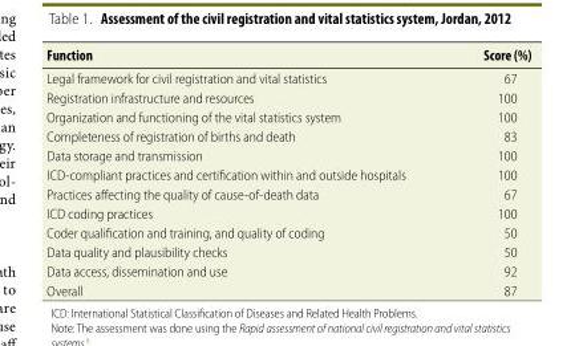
<table><thead><tr><td>Function</td><td>Score (%)</td></tr></thead><tbody><tr><td>Legal framework for civil registration and vital statistics</td><td>67</td></tr><tr><td>Registration infrastructure and resources</td><td>100</td></tr><tr><td>Organization and functioning of the vital statistics system</td><td>100</td></tr><tr><td>Completeness of registration of births and death</td><td>83</td></tr><tr><td>Data storage and transmission</td><td>100</td></tr><tr><td>ICD-compliant practices and certification within and outside hospitals</td><td>100</td></tr><tr><td>Practices affecting the quality of cause-of-death data</td><td>67</td></tr><tr><td>ICD coding practices</td><td>100</td></tr><tr><td>Coder qualification and training, and quality of coding</td><td>50</td></tr><tr><td>Data quality and plausibility checks</td><td>50</td></tr><tr><td>Data access, dissemination and use</td><td>92</td></tr><tr><td>Overall</td><td>87</td></tr></tbody></table>